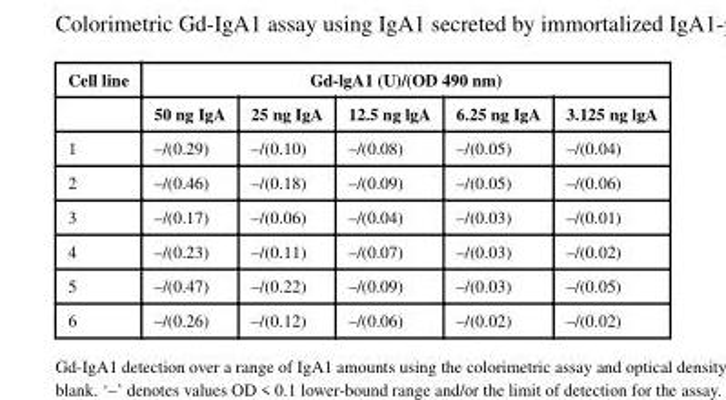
<table><thead><tr><td rowspan="2">Cell line</td><td colspan="5">Gd-lgA1 (U)/(OD 490 nm)</td></tr><tr><td>50 ng IgA</td><td>25 ng IgA</td><td>12.5 ng lgA</td><td>6.25 ng IgA</td><td>3.125 ng lgA</td></tr></thead><tbody><tr><td>1</td><td>–/(0.29)</td><td>–/(0.10)</td><td>–/(0.08)</td><td>–/(0.05)</td><td>–/(0.04)</td></tr><tr><td>2</td><td>–/(0.46)</td><td>–/(0.18)</td><td>–/(0.09)</td><td>–/(0.05)</td><td>–/(0.06)</td></tr><tr><td>3</td><td>–/(0.17)</td><td>–/(0.06)</td><td>–/(0.04)</td><td>–/(0.03)</td><td>–/(0.01)</td></tr><tr><td>4</td><td>–/(0.23)</td><td>–/(0.11)</td><td>–/(0.07)</td><td>–/(0.03)</td><td>–/(0.02)</td></tr><tr><td>5</td><td>–/(0.47)</td><td>–/(0.22)</td><td>–/(0.09)</td><td>–/(0.03)</td><td>–/(0.05)</td></tr><tr><td>6</td><td>–/(0.26)</td><td>–/(0.12)</td><td>–/(0.06)</td><td>–/(0.02)</td><td>–/(0.02)</td></tr></tbody></table>